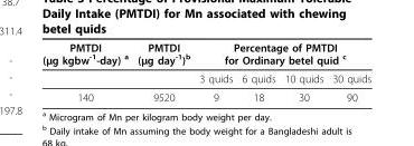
<table><thead><tr><td rowspan="2">PMTDI (μg kgbw<sup>-1</sup>-day) <sup>a</sup></td><td rowspan="2">PMTDI (μg day<sup>-1</sup>)<sup>b</sup></td><td colspan="4">Percentage of PMTDI for Ordinary betel quid <sup>c</sup></td></tr><tr><td>3 quids</td><td>6 quids</td><td>10 quids</td><td>30 quids</td></tr></thead><tbody><tr><td>140</td><td>9520</td><td>9</td><td>18</td><td>30</td><td>90</td></tr></tbody></table>